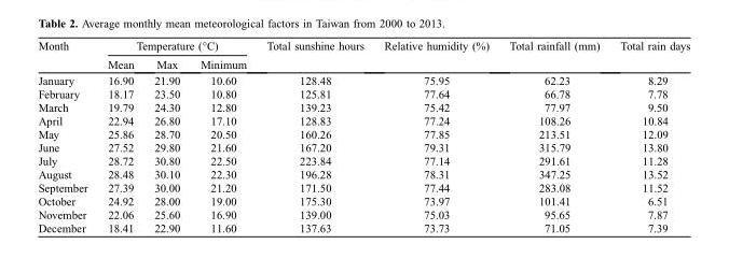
<table><thead><tr><td rowspan="2">Month</td><td colspan="3">Temperature (ºC)</td><td rowspan="2">Total sunshine hours</td><td rowspan="2">Relative humidity (%)</td><td rowspan="2">Total rainfall (mm)</td><td rowspan="2">Total rain days</td></tr><tr><td>Mean</td><td>Max</td><td>Minimum</td></tr></thead><tbody><tr><td>January</td><td>16.90</td><td>21.90</td><td>10.60</td><td>128.48</td><td>75.95</td><td>62.23</td><td>8.29</td></tr><tr><td>February</td><td>18.17</td><td>23.50</td><td>10.80</td><td>125.81</td><td>77.64</td><td>66.78</td><td>7.78</td></tr><tr><td>March</td><td>19.79</td><td>24.30</td><td>12.80</td><td>139.23</td><td>75.42</td><td>77.97</td><td>9.50</td></tr><tr><td>April</td><td>22.94</td><td>26.80</td><td>17.10</td><td>128.83</td><td>77.24</td><td>108.26</td><td>10.84</td></tr><tr><td>May</td><td>25.86</td><td>28.70</td><td>20.50</td><td>160.26</td><td>77.85</td><td>213.51</td><td>12.09</td></tr><tr><td>June</td><td>27.52</td><td>29.80</td><td>21.60</td><td>167.20</td><td>79.31</td><td>315.79</td><td>13.80</td></tr><tr><td>July</td><td>28.72</td><td>30.80</td><td>22.50</td><td>223.84</td><td>77.14</td><td>291.61</td><td>11.28</td></tr><tr><td>August</td><td>28.48</td><td>30.10</td><td>22.30</td><td>196.28</td><td>78.31</td><td>347.25</td><td>13.52</td></tr><tr><td>September</td><td>27.39</td><td>30.00</td><td>21.20</td><td>171.50</td><td>77.44</td><td>283.08</td><td>11.52</td></tr><tr><td>October</td><td>24.92</td><td>28.00</td><td>19.00</td><td>175.30</td><td>73.97</td><td>101.41</td><td>6.51</td></tr><tr><td>November</td><td>22.06</td><td>25.60</td><td>16.90</td><td>139.00</td><td>75.03</td><td>95.65</td><td>7.87</td></tr><tr><td>December</td><td>18.41</td><td>22.90</td><td>11.60</td><td>137.63</td><td>73.73</td><td>71.05</td><td>7.39</td></tr></tbody></table>